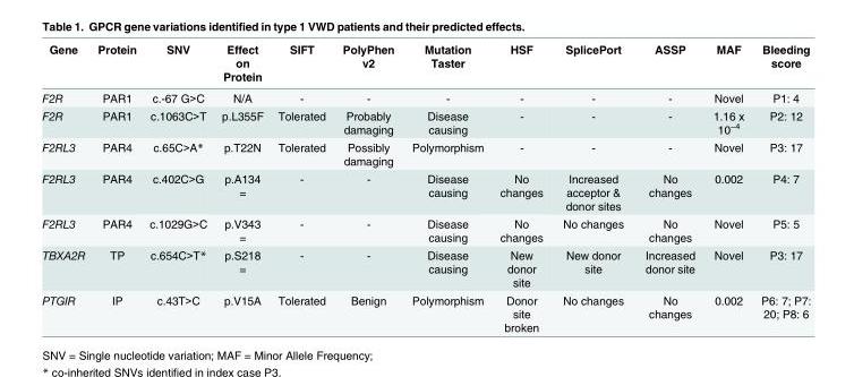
<table><thead><tr><td>Gene</td><td>Protein</td><td>SNV</td><td>Effect on Protein</td><td>SIFT</td><td>PolyPhen v2</td><td>Mutation Taster</td><td>HSF</td><td>SplicePort</td><td>ASSP</td><td>MAF</td><td>Bleeding score</td></tr></thead><tbody><tr><td>F2R</td><td>PAR1</td><td>c.-67 G&gt;C</td><td>N/A</td><td>-</td><td>-</td><td>-</td><td>-</td><td>-</td><td>-</td><td>Novel</td><td>P1: 4</td></tr><tr><td>F2R</td><td>PAR1</td><td>c.1063C&gt;T</td><td>p.L355F</td><td>Tolerated</td><td>Probably damaging</td><td>Disease causing</td><td>-</td><td>-</td><td>-</td><td>1.16 x 10<sup>−4</sup></td><td>P2: 12</td></tr><tr><td>F2RL3</td><td>PAR4</td><td>c.65C&gt;A*</td><td>p.T22N</td><td>Tolerated</td><td>Possibly damaging</td><td>Polymorphism</td><td>-</td><td>-</td><td>-</td><td>Novel</td><td>P3: 17</td></tr><tr><td>F2RL3</td><td>PAR4</td><td>c.402C&gt;G</td><td>p.A134 =</td><td>-</td><td>-</td><td>Disease causing</td><td>No changes</td><td>Increased acceptor &amp; donor sites</td><td>No changes</td><td>0.002</td><td>P4: 7</td></tr><tr><td>F2RL3</td><td>PAR4</td><td>c.1029G&gt;C</td><td>p.V343 =</td><td>-</td><td>-</td><td>Disease causing</td><td>No changes</td><td>No changes</td><td>No changes</td><td>Novel</td><td>P5: 5</td></tr><tr><td>TBXA2R</td><td>TP</td><td>c.654C&gt;T*</td><td>p.S218 =</td><td>-</td><td>-</td><td>Disease causing</td><td>New donor site</td><td>New donor site</td><td>Increased donor site</td><td>Novel</td><td>P3: 17</td></tr><tr><td>PTGIR</td><td>IP</td><td>c.43T&gt;C</td><td>p.V15A</td><td>Tolerated</td><td>Benign</td><td>Polymorphism</td><td>Donor site broken</td><td>No changes</td><td>No changes</td><td>0.002</td><td>P6: 7; P7: 20; P8: 6</td></tr></tbody></table>